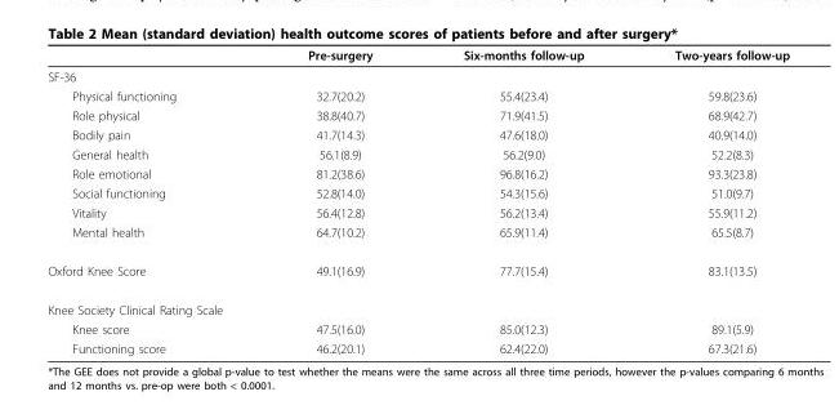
<table><thead><tr><td></td><td>Pre-surgery</td><td>Six-months follow-up</td><td>Two-years follow-up</td></tr></thead><tbody><tr><td colspan="4">SF-36</td></tr><tr><td>Physical functioning</td><td>32.7(20.2)</td><td>55.4(23.4)</td><td>59.8(23.6)</td></tr><tr><td>Role physical</td><td>38.8(40.7)</td><td>71.9(41.5)</td><td>68.9(42.7)</td></tr><tr><td>Bodily pain</td><td>41.7(14.3)</td><td>47.6(18.0)</td><td>40.9(14.0)</td></tr><tr><td>General health</td><td>56.1(8.9)</td><td>56.2(9.0)</td><td>52.2(8.3)</td></tr><tr><td>Role emotional</td><td>81.2(38.6)</td><td>96.8(16.2)</td><td>93.3(23.8)</td></tr><tr><td>Social functioning</td><td>52.8(14.0)</td><td>54.3(15.6)</td><td>51.0(9.7)</td></tr><tr><td>Vitality</td><td>56.4(12.8)</td><td>56.2(13.4)</td><td>55.9(11.2)</td></tr><tr><td>Mental health</td><td>64.7(10.2)</td><td>65.9(11.4)</td><td>65.5(8.7)</td></tr><tr><td>Oxford Knee Score</td><td>49.1(16.9)</td><td>77.7(15.4)</td><td>83.1(13.5)</td></tr><tr><td colspan="4">Knee Society Clinical Rating Scale</td></tr><tr><td>Knee score</td><td>47.5(16.0)</td><td>85.0(12.3)</td><td>89.1(5.9)</td></tr><tr><td>Functioning score</td><td>46.2(20.1)</td><td>62.4(22.0)</td><td>67.3(21.6)</td></tr></tbody></table>